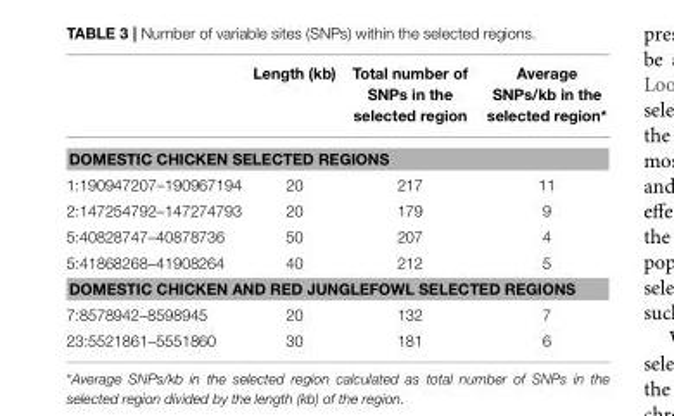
<table><thead><tr><td></td><td>Length (kb)</td><td>Total number of SNPs in the selected region</td><td>Average SNPs/kb in the selected region*</td></tr></thead><tbody><tr><td colspan="4">DOMESTIC CHICKEN SELECTED REGIONS</td></tr><tr><td>1:190947207–190967194</td><td>20</td><td>217</td><td>11</td></tr><tr><td>2:147254792–147274793</td><td>20</td><td>179</td><td>9</td></tr><tr><td>5:40828747–40878736</td><td>50</td><td>207</td><td>4</td></tr><tr><td>5:41868268–41908264</td><td>40</td><td>212</td><td>5</td></tr><tr><td colspan="4">DOMESTIC CHICKEN AND RED JUNGLEFOWL SELECTED REGIONS</td></tr><tr><td>7:8578942–8598945</td><td>20</td><td>132</td><td>7</td></tr><tr><td>23:5521861–5551860</td><td>30</td><td>181</td><td>6</td></tr></tbody></table>